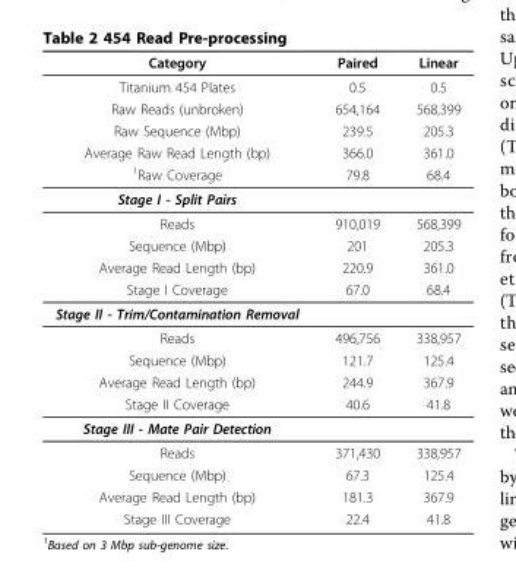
<table><thead><tr><td>Category</td><td>Paired</td><td>Linear</td></tr></thead><tbody><tr><td>Titanium 454 Plates</td><td>0.5</td><td>0.5</td></tr><tr><td>Raw Reads (unbroken)</td><td>654,164</td><td>568,399</td></tr><tr><td>Raw Sequence (Mbp)</td><td>239.5</td><td>205.3</td></tr><tr><td>Average Raw Read Length (bp)</td><td>366.0</td><td>361.0</td></tr><tr><td><sup>1</sup>Raw Coverage</td><td>79.8</td><td>68.4</td></tr><tr><td colspan="3">Stage I - Split Pairs</td></tr><tr><td>Reads</td><td>910,019</td><td>568,399</td></tr><tr><td>Sequence (Mbp)</td><td>201</td><td>205.3</td></tr><tr><td>Average Read Length (bp)</td><td>220.9</td><td>361.0</td></tr><tr><td>Stage I Coverage</td><td>67.0</td><td>68.4</td></tr><tr><td colspan="3">Stage II - Trim/Contamination Removal</td></tr><tr><td>Reads</td><td>496,756</td><td>338,957</td></tr><tr><td>Sequence (Mbp)</td><td>121.7</td><td>125.4</td></tr><tr><td>Average Read Length (bp)</td><td>244.9</td><td>367.9</td></tr><tr><td>Stage II Coverage</td><td>40.6</td><td>41.8</td></tr><tr><td colspan="3">Stage III - Mate Pair Detection</td></tr><tr><td>Reads</td><td>371,430</td><td>338,957</td></tr><tr><td>Sequence (Mbp)</td><td>67.3</td><td>125.4</td></tr><tr><td>Average Read Length (bp)</td><td>181.3</td><td>367.9</td></tr><tr><td>Stage III Coverage</td><td>22.4</td><td>41.8</td></tr></tbody></table>